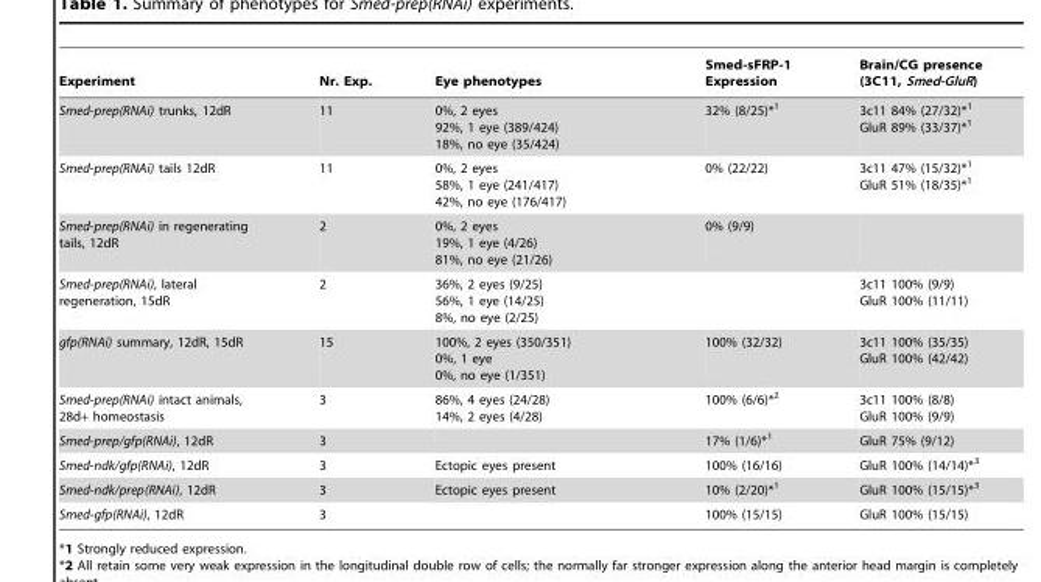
<table><thead><tr><td>Experiment</td><td>Nr. Exp.</td><td>Eye phenotypes</td><td>Smed-sFRP-1 Expression</td><td>Brain/CG presence (3C11, Smed-GluR)</td></tr></thead><tbody><tr><td>Smed-prep(RNAi) trunks, 12dR</td><td>11</td><td>0%, 2 eyes 92%, 1 eye (389/424) 18%, no eye (35/424)</td><td>32% (8/25)*1</td><td>3c11 84% (27/32)*1 GluR 89% (33/37)*1</td></tr><tr><td>Smed-prep(RNAi) tails 12dR</td><td>11</td><td>0%, 2 eyes 58%, 1 eye (241/417) 42%, no eye (176/417)</td><td>0% (22/22)</td><td>3c11 47% (15/32)*1 GluR 51% (18/35)*1</td></tr><tr><td>Smed-prep(RNAi) in regenerating tails, 12dR</td><td>2</td><td>0%, 2 eyes 19%, 1 eye (4/26) 81%, no eye (21/26)</td><td>0% (9/9)</td><td></td></tr><tr><td>Smed-prep(RNAi), lateral regeneration, 15dR</td><td>2</td><td>36%, 2 eyes (9/25) 56%, 1 eye (14/25) 8%, no eye (2/25)</td><td></td><td>3c11 100% (9/9) GluR 100% (11/11)</td></tr><tr><td>gfp(RNAi) summary, 12dR, 15dR</td><td>15</td><td>100%, 2 eyes (350/351) 0%, 1 eye 0%, no eye (1/351)</td><td>100% (32/32)</td><td>3c11 100% (35/35) GluR 100% (42/42)</td></tr><tr><td>Smed-prep(RNAi) intact animals, 28d+ homeostasis</td><td>3</td><td>86%, 4 eyes (24/28) 14%, 2 eyes (4/28)</td><td>100% (6/6)*2</td><td>3c11 100% (8/8) GluR 100% (9/9)</td></tr><tr><td>Smed-prep/gfp(RNAi), 12dR</td><td>3</td><td></td><td>17% (1/6)*1</td><td>GluR 75% (9/12)</td></tr><tr><td>Smed-ndk/gfp(RNAi), 12dR</td><td>3</td><td>Ectopic eyes present</td><td>100% (16/16)</td><td>GluR 100% (14/14)*3</td></tr><tr><td>Smed-ndk/prep(RNAi), 12dR</td><td>3</td><td>Ectopic eyes present</td><td>10% (2/20)*1</td><td>GluR 100% (15/15)*3</td></tr><tr><td>Smed-gfp(RNAi), 12dR</td><td>3</td><td></td><td>100% (15/15)</td><td>GluR 100% (15/15)</td></tr></tbody></table>